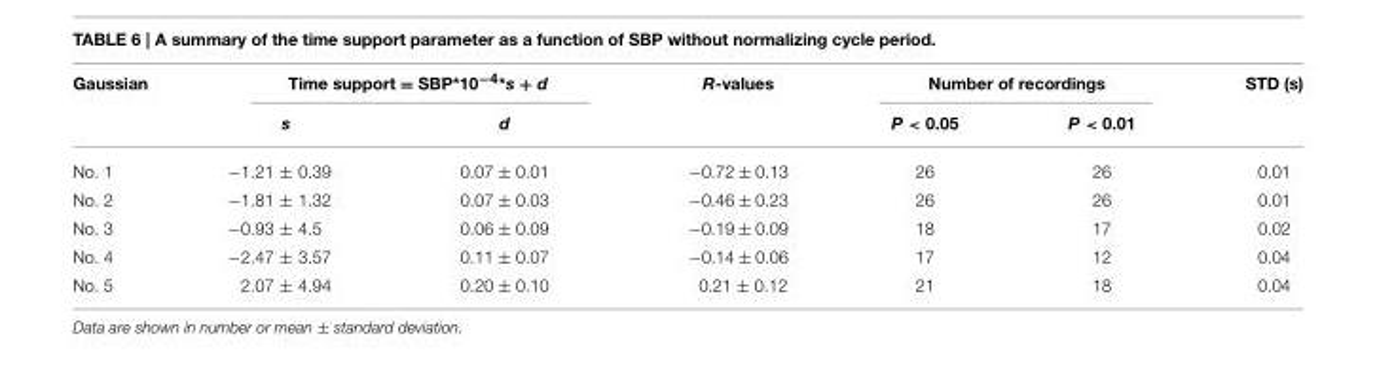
<table><thead><tr><td rowspan="2">Gaussian</td><td colspan="2">Time support = SBP*10<sup>−4*</sup>s + d</td><td rowspan="2">R-values</td><td colspan="2">Number of recordings</td><td rowspan="2">STD (s)</td></tr><tr><td>s</td><td>d</td><td>P &lt; 0.05</td><td>P &lt; 0.01</td></tr></thead><tbody><tr><td>No. 1</td><td>−1.21 ± 0.39</td><td>0.07 ± 0.01</td><td>−0.72 ± 0.13</td><td>26</td><td>26</td><td>0.01</td></tr><tr><td>No. 2</td><td>−1.81 ± 1.32</td><td>0.07 ± 0.03</td><td>−0.46 ± 0.23</td><td>26</td><td>26</td><td>0.01</td></tr><tr><td>No. 3</td><td>−0.93 ± 4.5</td><td>0.06 ± 0.09</td><td>−0.19 ± 0.09</td><td>18</td><td>17</td><td>0.02</td></tr><tr><td>No. 4</td><td>−2.47 ± 3.57</td><td>0.11 ± 0.07</td><td>−0.14 ± 0.06</td><td>17</td><td>12</td><td>0.04</td></tr><tr><td>No. 5</td><td>2.07 ± 4.94</td><td>0.20 ± 0.10</td><td>0.21 ± 0.12</td><td>21</td><td>18</td><td>0.04</td></tr></tbody></table>